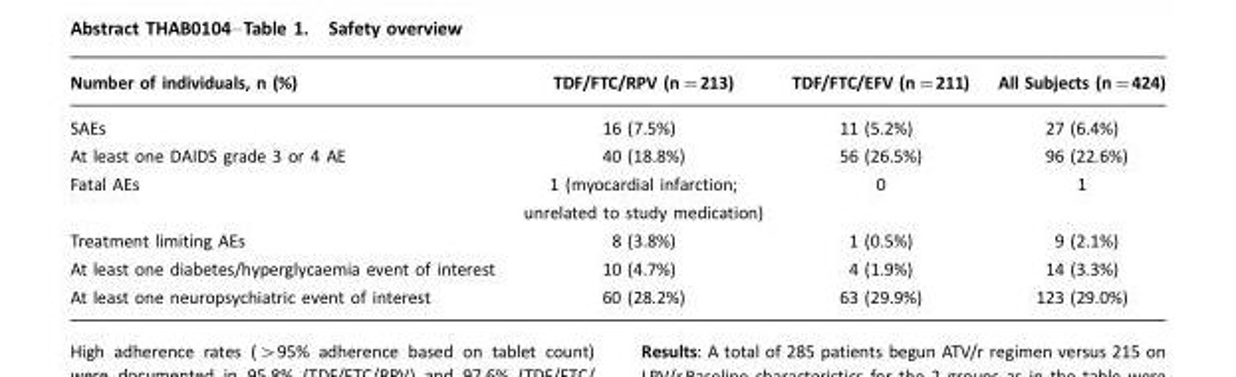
<table><thead><tr><td>Number of individuals, n (%)</td><td>TDF/FTC/RPV (n=213)</td><td>TDF/FTC/EFV (n=211)</td><td>All Subjects (n=424)</td></tr></thead><tbody><tr><td>SAEs</td><td>16 (7.5%)</td><td>11 (5.2%)</td><td>27 (6.4%)</td></tr><tr><td>At least one DAIDS grade 3 or 4 AE</td><td>40 (18.8%)</td><td>56 (26.5%)</td><td>96 (22.6%)</td></tr><tr><td>Fatal AEs</td><td>1 (myocardial infarction; unrelated to study medication)</td><td>0</td><td>1</td></tr><tr><td>Treatment limiting AEs</td><td>8 (3.8%)</td><td>1 (0.5%)</td><td>9 (2.1%)</td></tr><tr><td>At least one diabetes/hyperglycaemia event of interest</td><td>10 (4.7%)</td><td>4 (1.9%)</td><td>14 (3.3%)</td></tr><tr><td>At least one neuropsychiatric event of interest</td><td>60 (28.2%)</td><td>63 (29.9%)</td><td>123 (29.0%)</td></tr></tbody></table>